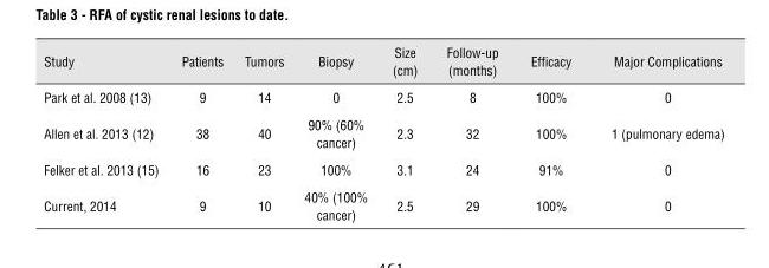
<table><thead><tr><td>Study</td><td>Patients</td><td>Tumors</td><td>Biopsy</td><td>Size (cm)</td><td>Follow-up (months)</td><td>Efficacy</td><td>Major Complications</td></tr></thead><tbody><tr><td>Park et al. 2008 (13)</td><td>9</td><td>14</td><td>0</td><td>2.5</td><td>8</td><td>100%</td><td>0</td></tr><tr><td>Allen et al. 2013 (12)</td><td>38</td><td>40</td><td>90% (60% cancer)</td><td>2.3</td><td>32</td><td>100%</td><td>1 (pulmonary edema)</td></tr><tr><td>Felker et al. 2013 (15)</td><td>16</td><td>23</td><td>100%</td><td>3.1</td><td>24</td><td>91%</td><td>0</td></tr><tr><td>Current, 2014</td><td>9</td><td>10</td><td>40% (100% cancer)</td><td>2.5</td><td>29</td><td>100%</td><td>0</td></tr></tbody></table>